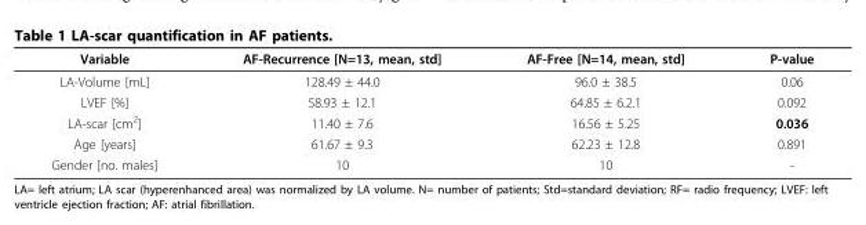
<table><thead><tr><td>Variable</td><td>AF-Recurrence [N=13, mean, std]</td><td>AF-Free [N=14, mean, std]</td><td>P-value</td></tr></thead><tbody><tr><td>LA-Volume [mL]</td><td>128.49 ± 44.0</td><td>96.0 ± 38.5</td><td>0.06</td></tr><tr><td>LVEF [%]</td><td>58.93 ± 12.1</td><td>64.85 ± 6.2.1</td><td>0.092</td></tr><tr><td>LA-scar [cm<sup>2</sup>]</td><td>11.40 ± 7.6</td><td>16.56 ± 5.25</td><td>0.036</td></tr><tr><td>Age [years]</td><td>61.67 ± 9.3</td><td>62.23 ± 12.8</td><td>0.891</td></tr><tr><td>Gender [no. males]</td><td>10</td><td>10</td><td>-</td></tr></tbody></table>